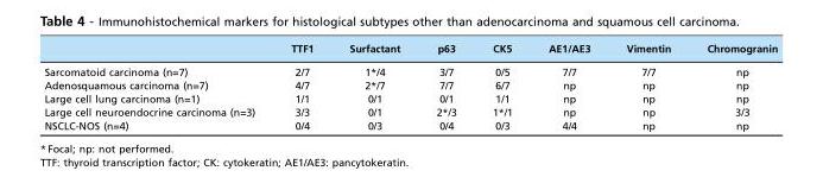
<table><thead><tr><td></td><td>TTF1</td><td>Surfactant</td><td>p63</td><td>CK5</td><td>AE1/AE3</td><td>Vimentin</td><td>Chromogranin</td></tr></thead><tbody><tr><td>Sarcomatoid carcinoma (n=7)</td><td>2/7</td><td>1*/4</td><td>3/7</td><td>0/5</td><td>7/7</td><td>7/7</td><td>np</td></tr><tr><td>Adenosquamous carcinoma (n=7)</td><td>4/7</td><td>2*/7</td><td>7/7</td><td>6/7</td><td>np</td><td>np</td><td>np</td></tr><tr><td>Large cell lung carcinoma (n=1)</td><td>1/1</td><td>0/1</td><td>0/1</td><td>1/1</td><td>np</td><td>np</td><td>np</td></tr><tr><td>Large cell neuroendocrine carcinoma (n=3)</td><td>3/3</td><td>0/1</td><td>2*/3</td><td>1*/1</td><td>np</td><td>np</td><td>3/3</td></tr><tr><td>NSCLC-NOS (n=4)</td><td>0/4</td><td>0/3</td><td>0/4</td><td>0/3</td><td>4/4</td><td>np</td><td>np</td></tr></tbody></table>